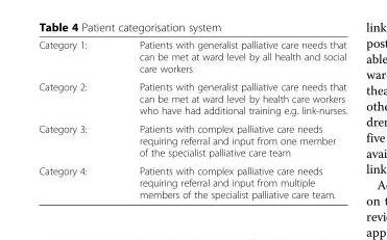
<table><tbody><tr><td>Category 1:</td><td>Patients with generalist palliative care needs that can be met at ward level by all health and social care workers</td></tr><tr><td>Category 2:</td><td>Patients with generalist palliative care needs that can be met at ward level by health care workers who have had additional training e.g. link-nurses.</td></tr><tr><td>Category 3:</td><td>Patients with complex palliative care needs requiring referral and input from one member of the specialist palliative care team</td></tr><tr><td>Category 4:</td><td>Patients with complex palliative care needs requiring referral and input from multiple members of the specialist palliative care team.</td></tr></tbody></table>